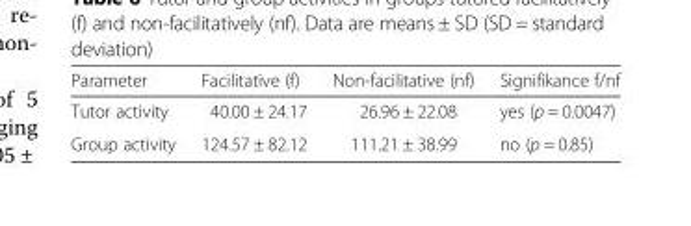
<table><thead><tr><td>Parameter</td><td>Facilitative (f)</td><td>Non-facilitative (nf)</td><td>Signifikance f/nf</td></tr></thead><tbody><tr><td>Tutor activity</td><td>40.00 ± 24.17</td><td>26.96 ± 22.08</td><td>yes (p = 0.0047)</td></tr><tr><td>Group activity</td><td>124.57 ± 82.12</td><td>111.21 ± 38.99</td><td>no (p = 0.85)</td></tr></tbody></table>